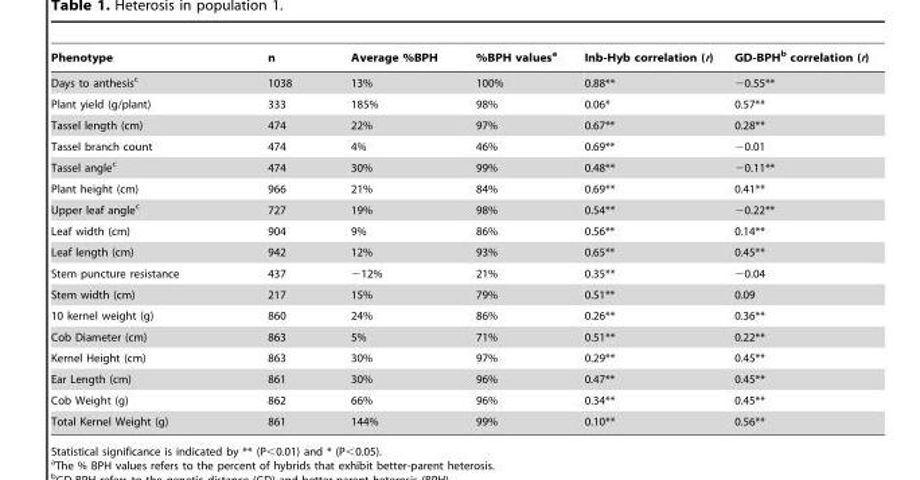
<table><thead><tr><td>Phenotype</td><td>n</td><td>Average %BPH</td><td>%BPH values<sup>a</sup></td><td>Inb-Hyb correlation (r)</td><td>GD-BPH<sup>b</sup> correlation (r)</td></tr></thead><tbody><tr><td>Days to anthesis<sup>c</sup></td><td>1038</td><td>13%</td><td>100%</td><td>0.88**</td><td>−0.55**</td></tr><tr><td>Plant yield (g/plant)</td><td>333</td><td>185%</td><td>98%</td><td>0.06*</td><td>0.57**</td></tr><tr><td>Tassel length (cm)</td><td>474</td><td>22%</td><td>97%</td><td>0.67**</td><td>0.28**</td></tr><tr><td>Tassel branch count</td><td>474</td><td>4%</td><td>46%</td><td>0.69**</td><td>−0.01</td></tr><tr><td>Tassel angle<sup>c</sup></td><td>474</td><td>30%</td><td>99%</td><td>0.48**</td><td>−0.11**</td></tr><tr><td>Plant height (cm)</td><td>966</td><td>21%</td><td>84%</td><td>0.69**</td><td>0.41**</td></tr><tr><td>Upper leaf angle<sup>c</sup></td><td>727</td><td>19%</td><td>98%</td><td>0.54**</td><td>−0.22**</td></tr><tr><td>Leaf width (cm)</td><td>904</td><td>9%</td><td>86%</td><td>0.56**</td><td>0.14**</td></tr><tr><td>Leaf length (cm)</td><td>942</td><td>12%</td><td>93%</td><td>0.65**</td><td>0.45**</td></tr><tr><td>Stem puncture resistance</td><td>437</td><td>−12%</td><td>21%</td><td>0.35**</td><td>−0.04</td></tr><tr><td>Stem width (cm)</td><td>217</td><td>15%</td><td>79%</td><td>0.51**</td><td>0.09</td></tr><tr><td>10 kernel weight (g)</td><td>860</td><td>24%</td><td>86%</td><td>0.26**</td><td>0.36**</td></tr><tr><td>Cob Diameter (cm)</td><td>863</td><td>5%</td><td>71%</td><td>0.51**</td><td>0.22**</td></tr><tr><td>Kernel Height (cm)</td><td>863</td><td>30%</td><td>97%</td><td>0.29**</td><td>0.45**</td></tr><tr><td>Ear Length (cm)</td><td>861</td><td>30%</td><td>96%</td><td>0.47**</td><td>0.45**</td></tr><tr><td>Cob Weight (g)</td><td>862</td><td>66%</td><td>96%</td><td>0.34**</td><td>0.45**</td></tr><tr><td>Total Kernel Weight (g)</td><td>861</td><td>144%</td><td>99%</td><td>0.10**</td><td>0.56**</td></tr></tbody></table>